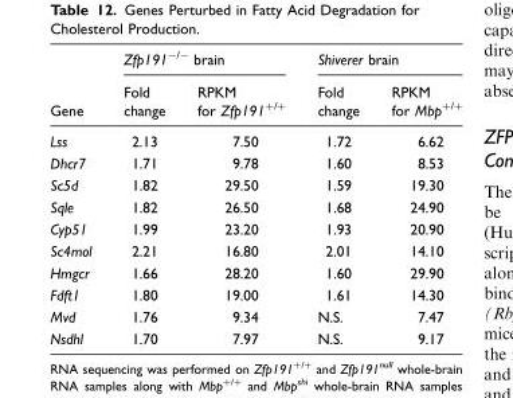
<table><thead><tr><td rowspan="2">Gene</td><td colspan="2">Zfp191<sup>−/−</sup> brain</td><td colspan="2">Shiverer brain</td></tr><tr><td>Fold change</td><td>RPKM for Zfp191<sup>+/+</sup></td><td>Fold change</td><td>RPKM for Mbp<sup>+/+</sup></td></tr></thead><tbody><tr><td>Lss</td><td>2.13</td><td>7.50</td><td>1.72</td><td>6.62</td></tr><tr><td>Dhcr7</td><td>1.71</td><td>9.78</td><td>1.60</td><td>8.53</td></tr><tr><td>Sc5d</td><td>1.82</td><td>29.50</td><td>1.59</td><td>19.30</td></tr><tr><td>Sqle</td><td>1.82</td><td>26.50</td><td>1.68</td><td>24.90</td></tr><tr><td>Cyp51</td><td>1.99</td><td>23.20</td><td>1.93</td><td>20.90</td></tr><tr><td>Sc4mol</td><td>2.21</td><td>16.80</td><td>2.01</td><td>14.10</td></tr><tr><td>Hmgcr</td><td>1.66</td><td>28.20</td><td>1.60</td><td>29.90</td></tr><tr><td>Fdft1</td><td>1.80</td><td>19.00</td><td>1.61</td><td>14.30</td></tr><tr><td>Mvd</td><td>1.76</td><td>9.34</td><td>N.S.</td><td>7.47</td></tr><tr><td>Nsdhl</td><td>1.70</td><td>7.97</td><td>N.S.</td><td>9.17</td></tr></tbody></table>